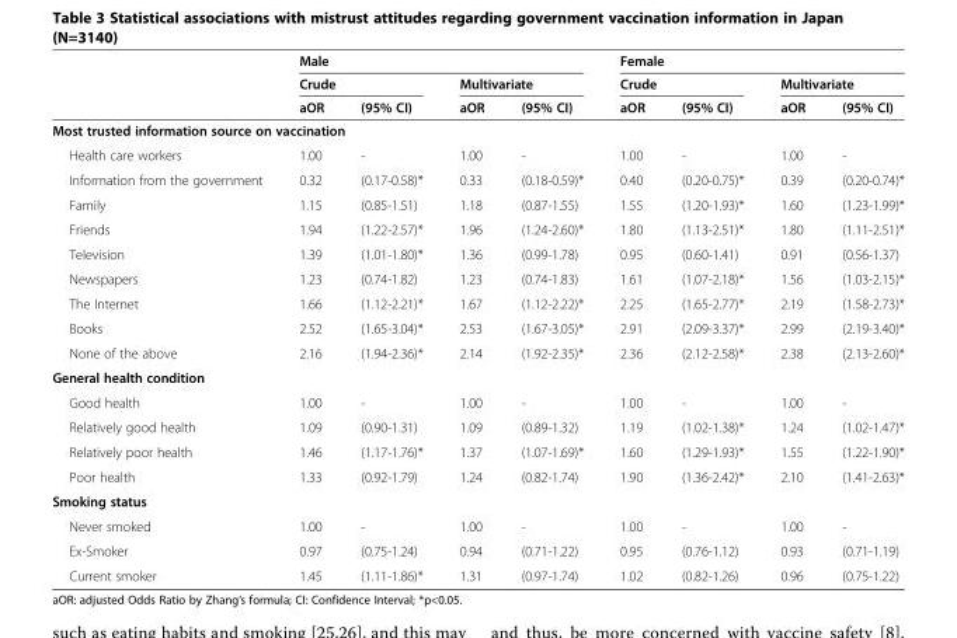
<table><thead><tr><td rowspan="3"></td><td colspan="4">Male</td><td colspan="4">Female</td></tr><tr><td colspan="2">Crude</td><td colspan="2">Multivariate</td><td colspan="2">Crude</td><td colspan="2">Multivariate</td></tr><tr><td>aOR</td><td>(95% CI)</td><td>aOR</td><td>(95% CI)</td><td>aOR</td><td>(95% CI)</td><td>aOR</td><td>(95% CI)</td></tr></thead><tbody><tr><td colspan="9">Most trusted information source on vaccination</td></tr><tr><td>Health care workers</td><td>1.00</td><td>-</td><td>1.00</td><td>-</td><td>1.00</td><td>-</td><td>1.00</td><td>-</td></tr><tr><td>Information from the government</td><td>0.32</td><td>(0.17-0.58)*</td><td>0.33</td><td>(0.18-0.59)*</td><td>0.40</td><td>(0.20-0.75)*</td><td>0.39</td><td>(0.20-0.74)*</td></tr><tr><td>Family</td><td>1.15</td><td>(0.85-1.51)</td><td>1.18</td><td>(0.87-1.55)</td><td>1.55</td><td>(1.20-1.93)*</td><td>1.60</td><td>(1.23-1.99)*</td></tr><tr><td>Friends</td><td>1.94</td><td>(1.22-2.57)*</td><td>1.96</td><td>(1.24-2.60)*</td><td>1.80</td><td>(1.13-2.51)*</td><td>1.80</td><td>(1.11-2.51)*</td></tr><tr><td>Television</td><td>1.39</td><td>(1.01-1.80)*</td><td>1.36</td><td>(0.99-1.78)</td><td>0.95</td><td>(0.60-1.41)</td><td>0.91</td><td>(0.56-1.37)</td></tr><tr><td>Newspapers</td><td>1.23</td><td>(0.74-1.82)</td><td>1.23</td><td>(0.74-1.83)</td><td>1.61</td><td>(1.07-2.18)*</td><td>1.56</td><td>(1.03-2.15)*</td></tr><tr><td>The Internet</td><td>1.66</td><td>(1.12-2.21)*</td><td>1.67</td><td>(1.12-2.22)*</td><td>2.25</td><td>(1.65-2.77)*</td><td>2.19</td><td>(1.58-2.73)*</td></tr><tr><td>Books</td><td>2.52</td><td>(1.65-3.04)*</td><td>2.53</td><td>(1.67-3.05)*</td><td>2.91</td><td>(2.09-3.37)*</td><td>2.99</td><td>(2.19-3.40)*</td></tr><tr><td>None of the above</td><td>2.16</td><td>(1.94-2.36)*</td><td>2.14</td><td>(1.92-2.35)*</td><td>2.36</td><td>(2.12-2.58)*</td><td>2.38</td><td>(2.13-2.60)*</td></tr><tr><td colspan="9">General health condition</td></tr><tr><td>Good health</td><td>1.00</td><td>-</td><td>1.00</td><td>-</td><td>1.00</td><td>-</td><td>1.00</td><td>-</td></tr><tr><td>Relatively good health</td><td>1.09</td><td>(0.90-1.31)</td><td>1.09</td><td>(0.89-1.32)</td><td>1.19</td><td>(1.02-1.38)*</td><td>1.24</td><td>(1.02-1.47)*</td></tr><tr><td>Relatively poor health</td><td>1.46</td><td>(1.17-1.76)*</td><td>1.37</td><td>(1.07-1.69)*</td><td>1.60</td><td>(1.29-1.93)*</td><td>1.55</td><td>(1.22-1.90)*</td></tr><tr><td>Poor health</td><td>1.33</td><td>(0.92-1.79)</td><td>1.24</td><td>(0.82-1.74)</td><td>1.90</td><td>(1.36-2.42)*</td><td>2.10</td><td>(1.41-2.63)*</td></tr><tr><td colspan="9">Smoking status</td></tr><tr><td>Never smoked</td><td>1.00</td><td>-</td><td>1.00</td><td>-</td><td>1.00</td><td>-</td><td>1.00</td><td>-</td></tr><tr><td>Ex-Smoker</td><td>0.97</td><td>(0.75-1.24)</td><td>0.94</td><td>(0.71-1.22)</td><td>0.95</td><td>(0.76-1.12)</td><td>0.93</td><td>(0.71-1.19)</td></tr><tr><td>Current smoker</td><td>1.45</td><td>(1.11-1.86)*</td><td>1.31</td><td>(0.97-1.74)</td><td>1.02</td><td>(0.82-1.26)</td><td>0.96</td><td>(0.75-1.22)</td></tr></tbody></table>